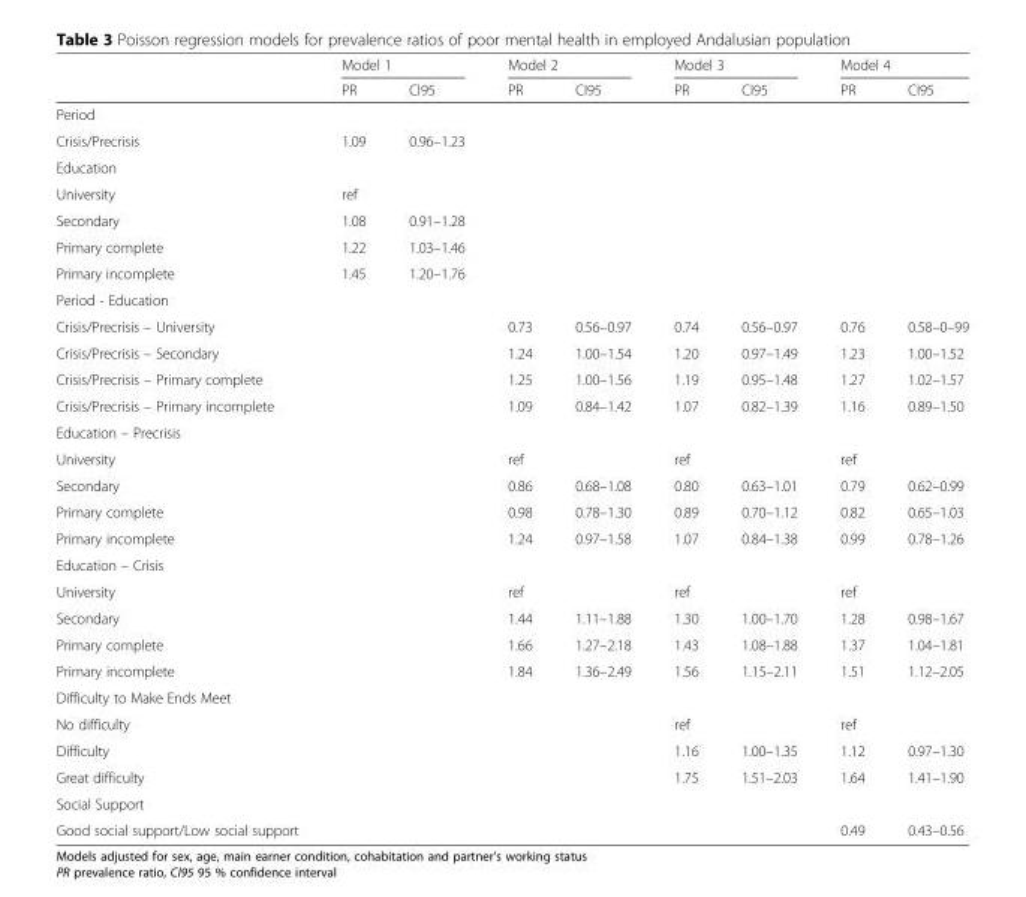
<table><thead><tr><td rowspan="2"></td><td colspan="2">Model 1</td><td colspan="2">Model 2</td><td colspan="2">Model 3</td><td colspan="2">Model 4</td></tr><tr><td>PR</td><td>CI95</td><td>PR</td><td>CI95</td><td>PR</td><td>CI95</td><td>PR</td><td>CI95</td></tr></thead><tbody><tr><td colspan="9">Period</td></tr><tr><td>Crisis/Precrisis</td><td>1.09</td><td>0.96–1.23</td><td></td><td></td><td></td><td></td><td></td><td></td></tr><tr><td colspan="9">Education</td></tr><tr><td>University</td><td>ref</td><td></td><td></td><td></td><td></td><td></td><td></td><td></td></tr><tr><td>Secondary</td><td>1.08</td><td>0.91–1.28</td><td></td><td></td><td></td><td></td><td></td><td></td></tr><tr><td>Primary complete</td><td>1.22</td><td>1.03–1.46</td><td></td><td></td><td></td><td></td><td></td><td></td></tr><tr><td>Primary incomplete</td><td>1.45</td><td>1.20–1.76</td><td></td><td></td><td></td><td></td><td></td><td></td></tr><tr><td colspan="9">Period - Education</td></tr><tr><td>Crisis/Precrisis – University</td><td></td><td></td><td>0.73</td><td>0.56–0.97</td><td>0.74</td><td>0.56–0.97</td><td>0.76</td><td>0.58–0–99</td></tr><tr><td>Crisis/Precrisis – Secondary</td><td></td><td></td><td>1.24</td><td>1.00–1.54</td><td>1.20</td><td>0.97–1.49</td><td>1.23</td><td>1.00–1.52</td></tr><tr><td>Crisis/Precrisis – Primary complete</td><td></td><td></td><td>1.25</td><td>1.00–1.56</td><td>1.19</td><td>0.95–1.48</td><td>1.27</td><td>1.02–1.57</td></tr><tr><td>Crisis/Precrisis – Primary incomplete</td><td></td><td></td><td>1.09</td><td>0.84–1.42</td><td>1.07</td><td>0.82–1.39</td><td>1.16</td><td>0.89–1.50</td></tr><tr><td colspan="9">Education – Precrisis</td></tr><tr><td>University</td><td></td><td></td><td>ref</td><td></td><td>ref</td><td></td><td>ref</td><td></td></tr><tr><td>Secondary</td><td></td><td></td><td>0.86</td><td>0.68–1.08</td><td>0.80</td><td>0.63–1.01</td><td>0.79</td><td>0.62–0.99</td></tr><tr><td>Primary complete</td><td></td><td></td><td>0.98</td><td>0.78–1.30</td><td>0.89</td><td>0.70–1.12</td><td>0.82</td><td>0.65–1.03</td></tr><tr><td>Primary incomplete</td><td></td><td></td><td>1.24</td><td>0.97–1.58</td><td>1.07</td><td>0.84–1.38</td><td>0.99</td><td>0.78–1.26</td></tr><tr><td colspan="9">Education – Crisis</td></tr><tr><td>University</td><td></td><td></td><td>ref</td><td></td><td>ref</td><td></td><td>ref</td><td></td></tr><tr><td>Secondary</td><td></td><td></td><td>1.44</td><td>1.11–1.88</td><td>1.30</td><td>1.00–1.70</td><td>1.28</td><td>0.98–1.67</td></tr><tr><td>Primary complete</td><td></td><td></td><td>1.66</td><td>1.27–2.18</td><td>1.43</td><td>1.08–1.88</td><td>1.37</td><td>1.04–1.81</td></tr><tr><td>Primary incomplete</td><td></td><td></td><td>1.84</td><td>1.36–2.49</td><td>1.56</td><td>1.15–2.11</td><td>1.51</td><td>1.12–2.05</td></tr><tr><td colspan="9">Difficulty to Make Ends Meet</td></tr><tr><td>No difficulty</td><td></td><td></td><td></td><td></td><td>ref</td><td></td><td>ref</td><td></td></tr><tr><td>Difficulty</td><td></td><td></td><td></td><td></td><td>1.16</td><td>1.00–1.35</td><td>1.12</td><td>0.97–1.30</td></tr><tr><td>Great difficulty</td><td></td><td></td><td></td><td></td><td>1.75</td><td>1.51–2.03</td><td>1.64</td><td>1.41–1.90</td></tr><tr><td colspan="9">Social Support</td></tr><tr><td>Good social support/Low social support</td><td></td><td></td><td></td><td></td><td></td><td></td><td>0.49</td><td>0.43–0.56</td></tr></tbody></table>